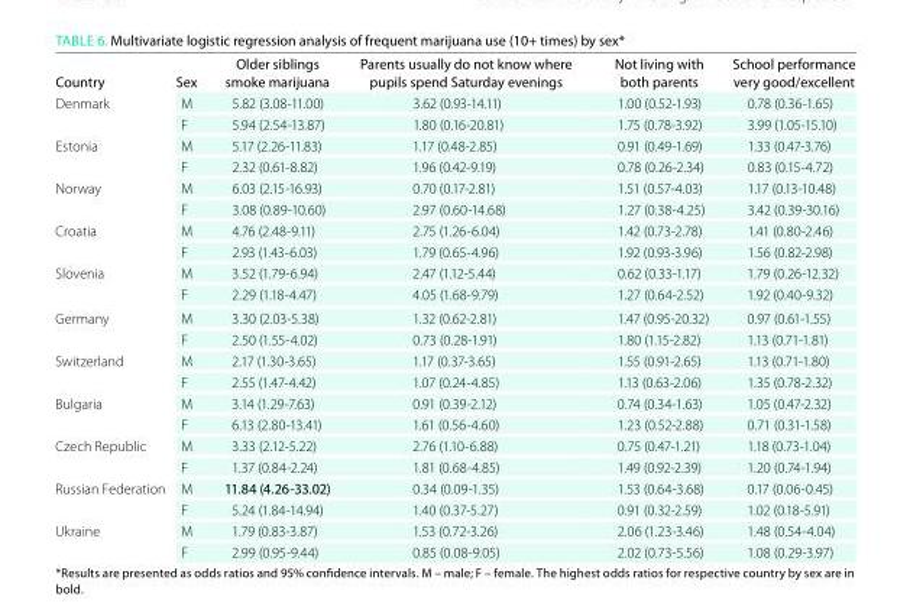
<table><thead><tr><td>Country</td><td>sex</td><td>older siblings smoke marijuana</td><td>Parents usually do not know where pupils spend saturday evenings</td><td>Not living with both parents</td><td>school performance very good/excellent</td></tr></thead><tbody><tr><td rowspan="2">Denmark</td><td>M</td><td>5.82 (3.08-11.00)</td><td>3.62 (0.93-14.11)</td><td>1.00 (0.52-1.93)</td><td>0.78 (0.36-1.65)</td></tr><tr><td>F</td><td>5.94 (2.54-13.87)</td><td>1.80 (0.16-20.81)</td><td>1.75 (0.78-3.92)</td><td>3.99 (1.05-15.10)</td></tr><tr><td rowspan="2">Estonia</td><td>M</td><td>5.17 (2.26-11.83)</td><td>1.17 (0.48-2.85)</td><td>0.91 (0.49-1.69)</td><td>1.33 (0.47-3.76)</td></tr><tr><td>F</td><td>2.32 (0.61-8.82)</td><td>1.96 (0.42-9.19)</td><td>0.78 (0.26-2.34)</td><td>0.83 (0.15-4.72)</td></tr><tr><td rowspan="2">Norway</td><td>M</td><td>6.03 (2.15-16.93)</td><td>0.70 (0.17-2.81)</td><td>1.51 (0.57-4.03)</td><td>1.17 (0.13-10.48)</td></tr><tr><td>F</td><td>3.08 (0.89-10.60)</td><td>2.97 (0.60-14.68)</td><td>1.27 (0.38-4.25)</td><td>3.42 (0.39-30.16)</td></tr><tr><td rowspan="2">Croatia</td><td>M</td><td>4.76 (2.48-9.11)</td><td>2.75 (1.26-6.04)</td><td>1.42 (0.73-2.78)</td><td>1.41 (0.80-2.46)</td></tr><tr><td>F</td><td>2.93 (1.43-6.03)</td><td>1.79 (0.65-4.96)</td><td>1.92 (0.93-3.96)</td><td>1.56 (0.82-2.98)</td></tr><tr><td rowspan="2">Slovenia</td><td>M</td><td>3.52 (1.79-6.94)</td><td>2.47 (1.12-5.44)</td><td>0.62 (0.33-1.17)</td><td>1.79 (0.26-12.32)</td></tr><tr><td>F</td><td>2.29 (1.18-4.47)</td><td>4.05 (1.68-9.79)</td><td>1.27 (0.64-2.52)</td><td>1.92 (0.40-9.32)</td></tr><tr><td rowspan="2">Germany</td><td>M</td><td>3.30 (2.03-5.38)</td><td>1.32 (0.62-2.81)</td><td>1.47 (0.95-20.32)</td><td>0.97 (0.61-1.55)</td></tr><tr><td>F</td><td>2.50 (1.55-4.02)</td><td>0.73 (0.28-1.91)</td><td>1.80 (1.15-2.82)</td><td>1.13 (0.71-1.81)</td></tr><tr><td rowspan="2">Switzerland</td><td>M</td><td>2.17 (1.30-3.65)</td><td>1.17 (0.37-3.65)</td><td>1.55 (0.91-2.65)</td><td>1.13 (0.71-1.80)</td></tr><tr><td>F</td><td>2.55 (1.47-4.42)</td><td>1.07 (0.24-4.85)</td><td>1.13 (0.63-2.06)</td><td>1.35 (0.78-2.32)</td></tr><tr><td rowspan="2">Bulgaria</td><td>M</td><td>3.14 (1.29-7.63)</td><td>0.91 (0.39-2.12)</td><td>0.74 (0.34-1.63)</td><td>1.05 (0.47-2.32)</td></tr><tr><td>F</td><td>6.13 (2.80-13.41)</td><td>1.61 (0.56-4.60)</td><td>1.23 (0.52-2.88)</td><td>0.71 (0.31-1.58)</td></tr><tr><td rowspan="2">Czech Republic</td><td>M</td><td>3.33 (2.12-5.22)</td><td>2.76 (1.10-6.88)</td><td>0.75 (0.47-1.21)</td><td>1.18 (0.73-1.04)</td></tr><tr><td>F</td><td>1.37 (0.84-2.24)</td><td>1.81 (0.68-4.85)</td><td>1.49 (0.92-2.39)</td><td>1.20 (0.74-1.94)</td></tr><tr><td rowspan="2">Russian Federation</td><td>M</td><td>11.84 (4.26-33.02)</td><td>0.34 (0.09-1.35)</td><td>1.53 (0.64-3.68)</td><td>0.17 (0.06-0.45)</td></tr><tr><td>F</td><td>5.24 (1.84-14.94)</td><td>1.40 (0.37-5.27)</td><td>0.91 (0.32-2.59)</td><td>1.02 (0.18-5.91)</td></tr><tr><td rowspan="2">Ukraine</td><td>M</td><td>1.79 (0.83-3.87)</td><td>1.53 (0.72-3.26)</td><td>2.06 (1.23-3.46)</td><td>1.48 (0.54-4.04)</td></tr><tr><td>F</td><td>2.99 (0.95-9.44)</td><td>0.85 (0.08-9.05)</td><td>2.02 (0.73-5.56)</td><td>1.08 (0.29-3.97)</td></tr></tbody></table>